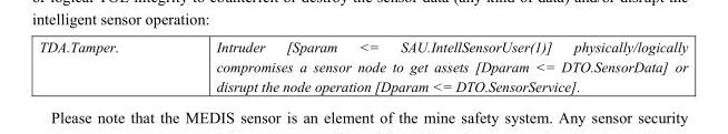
<table><tbody><tr><td>TDA.Tamper.</td><td>Intruder [Sparam &lt;= SAU.IntellSensorUser(1)] physically/logically compromises a sensor node to get assets [Dparam &lt;= DTO.SensorData] or disrupt the node operation [Dparam &lt;= DTO.SensorService].</td></tr></tbody></table>